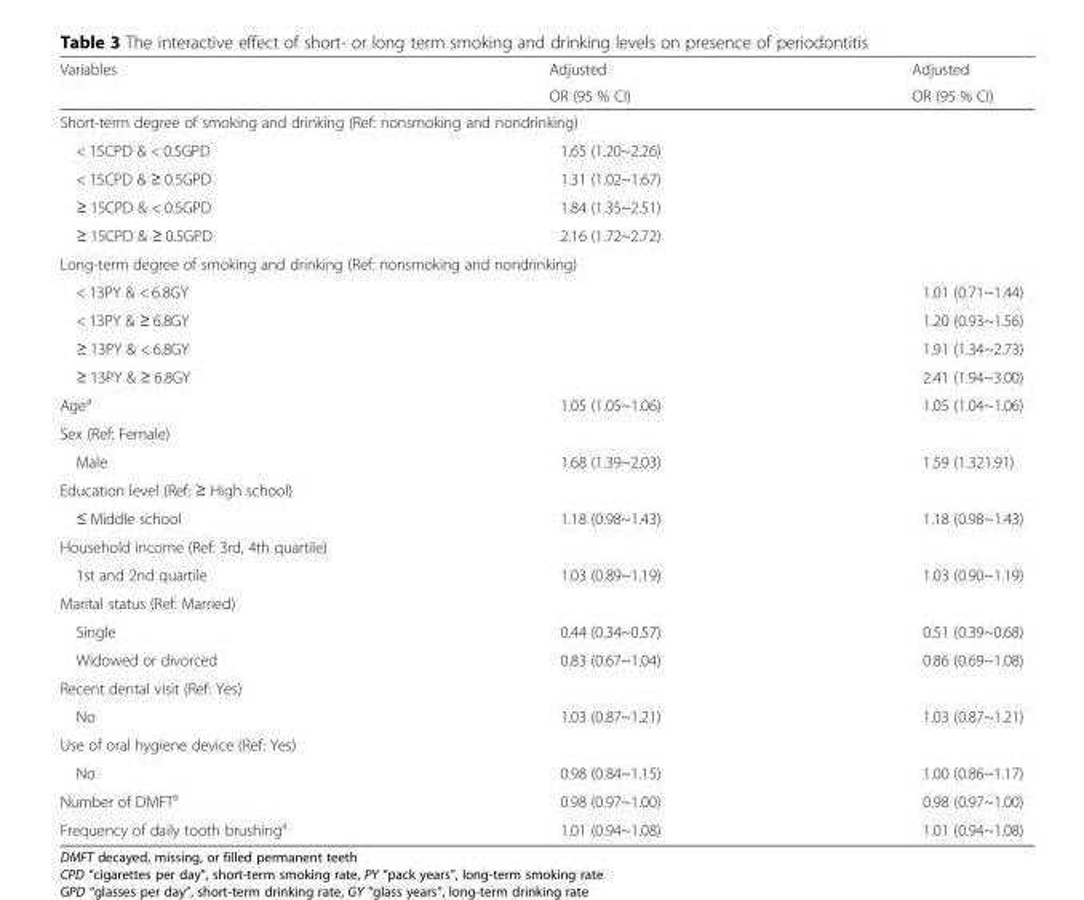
<table><thead><tr><td rowspan="2">Variables</td><td rowspan="2">Adjusted OR (95 % CI)</td><td rowspan="2">Adjusted OR (95 % CI)</td></tr><tr></tr></thead><tbody><tr><td colspan="3">Short-term degree of smoking and drinking (Ref: nonsmoking and nondrinking)</td></tr><tr><td>&lt; 15CPD &amp; &lt; 0.5GPD</td><td>1.65 (1.20~2.26)</td><td></td></tr><tr><td>&lt; 15CPD &amp; ≥ 0.5GPD</td><td>1.31 (1.02~1.67)</td><td></td></tr><tr><td>≥ 15CPD &amp; &lt; 0.5GPD</td><td>1.84 (1.35~2.51)</td><td></td></tr><tr><td>≥ 15CPD &amp; ≥ 0.5GPD</td><td>2.16 (1.72~2.72)</td><td></td></tr><tr><td colspan="3">Long-term degree of smoking and drinking (Ref: nonsmoking and nondrinking)</td></tr><tr><td>&lt; 13PY &amp; &lt; 6.8GY</td><td></td><td>1.01 (0.71~1.44)</td></tr><tr><td>&lt; 13PY &amp; ≥ 6.8GY</td><td></td><td>1.20 (0.93~1.56)</td></tr><tr><td>≥ 13PY &amp; &lt; 6.8GY</td><td></td><td>1.91 (1.34~2.73)</td></tr><tr><td>≥ 13PY &amp; ≥ 6.8GY</td><td></td><td>2.41 (1.94~3.00)</td></tr><tr><td>Age<sup>a</sup></td><td>1.05 (1.05~1.06)</td><td>1.05 (1.04~1.06)</td></tr><tr><td colspan="3">Sex (Ref: Female)</td></tr><tr><td>Male</td><td>1.68 (1.39~2.03)</td><td>1.59 (1.321.91)</td></tr><tr><td colspan="3">Education level (Ref: ≥ High school)</td></tr><tr><td>≤ Middle school</td><td>1.18 (0.98~1.43)</td><td>1.18 (0.98~1.43)</td></tr><tr><td colspan="3">Household income (Ref: 3rd, 4th quartile)</td></tr><tr><td>1st and 2nd quartile</td><td>1.03 (0.89~1.19)</td><td>1.03 (0.90~1.19)</td></tr><tr><td colspan="3">Marital status (Ref: Married)</td></tr><tr><td>Single</td><td>0.44 (0.34~0.57)</td><td>0.51 (0.39~0.68)</td></tr><tr><td>Widowed or divorced</td><td>0.83 (0.67~1.04)</td><td>0.86 (0.69~1.08)</td></tr><tr><td colspan="3">Recent dental visit (Ref: Yes)</td></tr><tr><td>No</td><td>1.03 (0.87~1.21)</td><td>1.03 (0.87~1.21)</td></tr><tr><td colspan="3">Use of oral hygiene device (Ref: Yes)</td></tr><tr><td>No</td><td>0.98 (0.84~1.15)</td><td>1.00 (0.86~1.17)</td></tr><tr><td>Number of DMFT<sup>a</sup></td><td>0.98 (0.97~1.00)</td><td>0.98 (0.97~1.00)</td></tr><tr><td>Frequency of daily tooth brushing<sup>a</sup></td><td>1.01 (0.94~1.08)</td><td>1.01 (0.94~1.08)</td></tr></tbody></table>